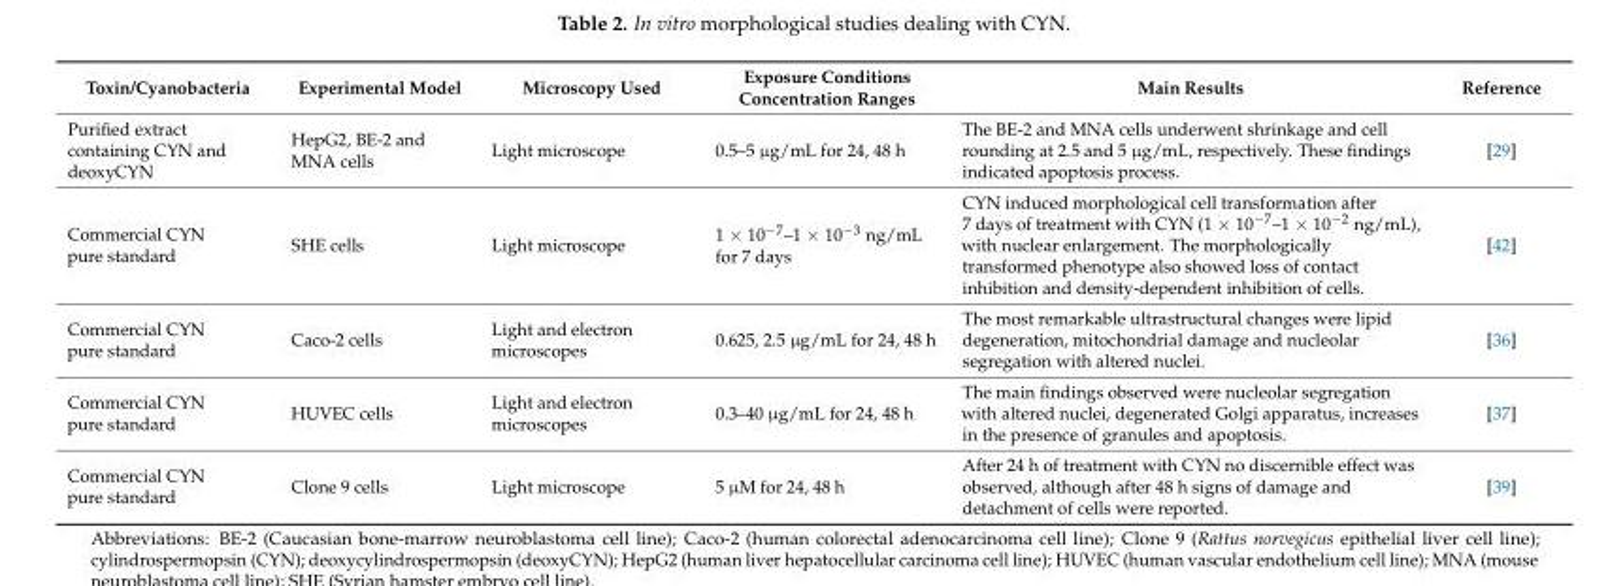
<table><thead><tr><td>Toxin/Cyanobacteria</td><td>Experimental Model</td><td>Microscopy Used</td><td>Exposure Conditions Concentration Ranges</td><td>Main Results</td><td>Reference</td></tr></thead><tbody><tr><td>Purified extract containing CYN and deoxyCYN</td><td>HepG2, BE-2 and MNA cells</td><td>Light microscope</td><td>0.5–5 µg/mL for 24, 48 h</td><td>The BE-2 and MNA cells underwent shrinkage and cell rounding at 2.5 and 5 µg/mL, respectively. These findings indicated apoptosis process.</td><td>[29]</td></tr><tr><td>Commercial CYN pure standard</td><td>SHE cells</td><td>Light microscope</td><td>1 × 10<sup>−7</sup>–1 × 10<sup>−3</sup> ng/mL for 7 days</td><td>CYN induced morphological cell transformation after 7 days of treatment with CYN (1 × 10<sup>−7</sup>–1 × 10<sup>−2</sup> ng/mL), with nuclear enlargement. The morphologically transformed phenotype also showed loss of contact inhibition and density-dependent inhibition of cells.</td><td>[42]</td></tr><tr><td>Commercial CYN pure standard</td><td>Caco-2 cells</td><td>Light and electron microscopes</td><td>0.625, 2.5 µg/mL for 24, 48 h</td><td>The most remarkable ultrastructural changes were lipid degeneration, mitochondrial damage and nucleolar segregation with altered nuclei.</td><td>[36]</td></tr><tr><td>Commercial CYN pure standard</td><td>HUVEC cells</td><td>Light and electron microscopes</td><td>0.3–40 µg/mL for 24, 48 h</td><td>The main findings observed were nucleolar segregation with altered nuclei, degenerated Golgi apparatus, increases in the presence of granules and apoptosis.</td><td>[37]</td></tr><tr><td>Commercial CYN pure standard</td><td>Clone 9 cells</td><td>Light microscope</td><td>5 µM for 24, 48 h</td><td>After 24 h of treatment with CYN no discernible effect was observed, although after 48 h signs of damage and detachment of cells were reported.</td><td>[39]</td></tr></tbody></table>